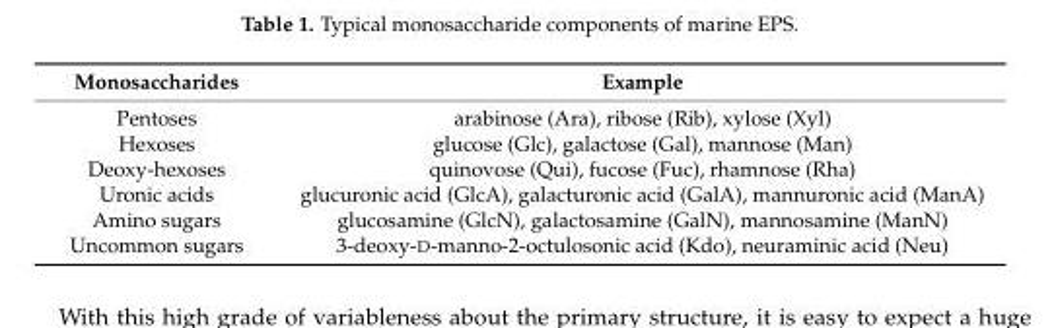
<table><thead><tr><td>Monosaccharides</td><td>Example</td></tr></thead><tbody><tr><td>Pentoses</td><td>arabinose (Ara), ribose (Rib), xylose (Xyl)</td></tr><tr><td>Hexoses</td><td>glucose (Glc), galactose (Gal), mannose (Man)</td></tr><tr><td>Deoxy-hexoses</td><td>quinovose (Qui), fucose (Fuc), rhamnose (Rha)</td></tr><tr><td>Uronic acids</td><td>glucuronic acid (GlcA), galacturonic acid (GalA), mannuronic acid (ManA)</td></tr><tr><td>Amino sugars</td><td>glucosamine (GlcN), galactosamine (GalN), mannosamine (ManN)</td></tr><tr><td>Uncommon sugars</td><td>3-deoxy-D-manno-2-octulosonic acid (Kdo), neuraminic acid (Neu)</td></tr></tbody></table>